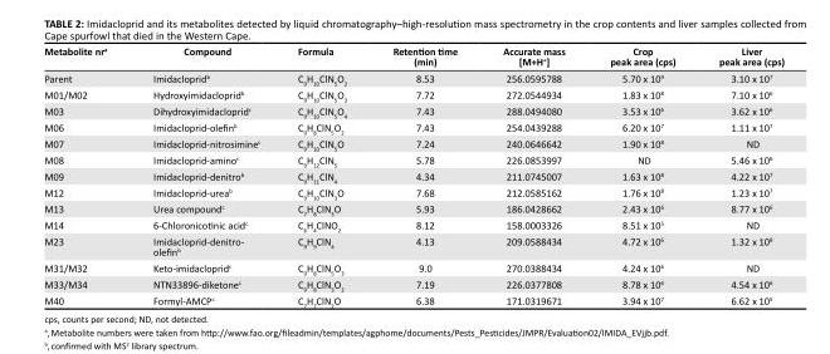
<table><thead><tr><td>Metabolite nr<sup>a</sup></td><td>Compound</td><td>Formula</td><td>Retention time (min)</td><td>Accurate mass [M+H<sup>+</sup>]</td><td>Crop peak area (cps)</td><td>Liver peak area (cps)</td></tr></thead><tbody><tr><td>Parent</td><td>Imidacloprid<sup>b</sup></td><td>C<sub>9</sub>H<sub>10</sub>ClN<sub>5</sub>O<sub>2</sub></td><td>8.53</td><td>256.0595788</td><td>5.70 x 109</td><td>3.10 x 107</td></tr><tr><td>M01/M02</td><td>Hydroxyimidacloprid<sup>b</sup></td><td>C<sub>9</sub>H<sub>10</sub>ClN<sub>5</sub>O<sub>3</sub></td><td>7.72</td><td>272.0544934</td><td>1.83 x 108</td><td>7.10 x 106</td></tr><tr><td>M03</td><td>Dihydroxyimidacloprid<sup>c</sup></td><td>C<sub>9</sub>H<sub>10</sub>ClN<sub>5</sub>O<sub>4</sub></td><td>7.43</td><td>288.0494080</td><td>3.53 x 106</td><td>3.62 x 106</td></tr><tr><td>M06</td><td>Imidacloprid-olefin<sup>b</sup></td><td>C<sub>9</sub>H<sub>8</sub>ClN<sub>5</sub>O<sub>2</sub></td><td>7.43</td><td>254.0439288</td><td>6.20 x 107</td><td>1.11 x 107</td></tr><tr><td>M07</td><td>Imidacloprid-nitrosimine<sup>c</sup></td><td>C<sub>9</sub>H<sub>10</sub>ClN<sub>5</sub>O</td><td>7.24</td><td>240.0646642</td><td>1.90 x 108</td><td>ND</td></tr><tr><td>M08</td><td>Imidacloprid-amino<sup>c</sup></td><td>C<sub>9</sub>H<sub>12</sub>ClN<sub>5</sub></td><td>5.78</td><td>226.0853997</td><td>ND</td><td>5.46 x 106</td></tr><tr><td>M09</td><td>Imidacloprid-denitro<sup>b</sup></td><td>C<sub>9</sub>H<sub>11</sub>ClN<sub>4</sub></td><td>4.34</td><td>211.0745007</td><td>1.63 x 108</td><td>4.22 x 107</td></tr><tr><td>M12</td><td>Imidacloprid-urea<sup>b</sup></td><td>C<sub>9</sub>H<sub>10</sub>ClN<sub>3</sub>O</td><td>7.68</td><td>212.0585162</td><td>1.76 x 108</td><td>1.23 x 107</td></tr><tr><td>M13</td><td>Urea compound<sup>c</sup></td><td>C<sub>7</sub>H<sub>8</sub>ClN<sub>3</sub>O</td><td>5.93</td><td>186.0428662</td><td>2.43 x 106</td><td>8.77 x 106</td></tr><tr><td>M14</td><td>6-Chloronicotinic acid<sup>c</sup></td><td>C<sub>6</sub>H<sub>4</sub>ClNO<sub>2</sub></td><td>8.12</td><td>158.0003326</td><td>8.51 x 105</td><td>ND</td></tr><tr><td>M23</td><td>Imidacloprid-denitro- olefin<sup>b</sup></td><td>C<sub>9</sub>H<sub>9</sub>ClN<sub>4</sub></td><td>4.13</td><td>209.0588434</td><td>4.72 x 106</td><td>1.32 x 108</td></tr><tr><td>M31/M32</td><td>Keto-imidacloprid<sup>c</sup></td><td>C<sub>9</sub>H<sub>8</sub>ClN<sub>5</sub>O<sub>3</sub></td><td>9.0</td><td>270.0388434</td><td>4.24 x 106</td><td>ND</td></tr><tr><td>M33/M34</td><td>NTN33896-diketone<sup>c</sup></td><td>C<sub>9</sub>H<sub>8</sub>ClN<sub>3</sub>O<sub>2</sub></td><td>7.19</td><td>226.0377808</td><td>8.78 x 106</td><td>4.54 x 106</td></tr><tr><td>M40</td><td>Formyl-AMCP<sup>c</sup></td><td>C<sub>7</sub>H<sub>7</sub>ClN<sub>2</sub>O</td><td>6.38</td><td>171.0319671</td><td>3.94 x 107</td><td>6.62 x 105</td></tr></tbody></table>